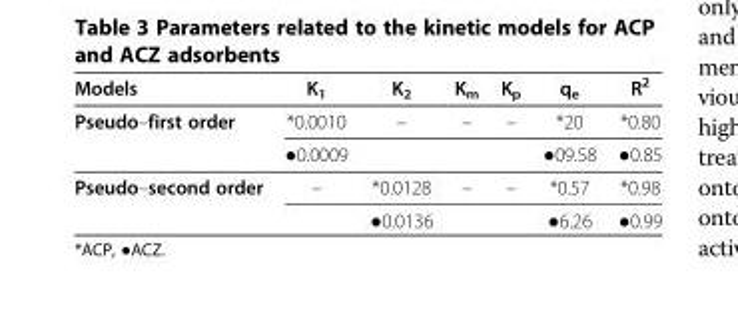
<table><thead><tr><td>Models</td><td>K<sub>1</sub></td><td>K<sub>2</sub></td><td>K<sub>m</sub></td><td>K<sub>p</sub></td><td>q<sub>e</sub></td><td>R<sup>2</sup></td></tr></thead><tbody><tr><td rowspan="2">Pseudo–first order</td><td>*0.0010</td><td>–</td><td>–</td><td>–</td><td>*20</td><td>*0.80</td></tr><tr><td>●0.0009</td><td></td><td></td><td></td><td>●09.58</td><td>●0.85</td></tr><tr><td rowspan="2">Pseudo–second order</td><td>–</td><td>*0.0128</td><td>–</td><td>–</td><td>*0.57</td><td>*0.98</td></tr><tr><td></td><td>●0.0136</td><td></td><td></td><td>●6.26</td><td>●0.99</td></tr></tbody></table>